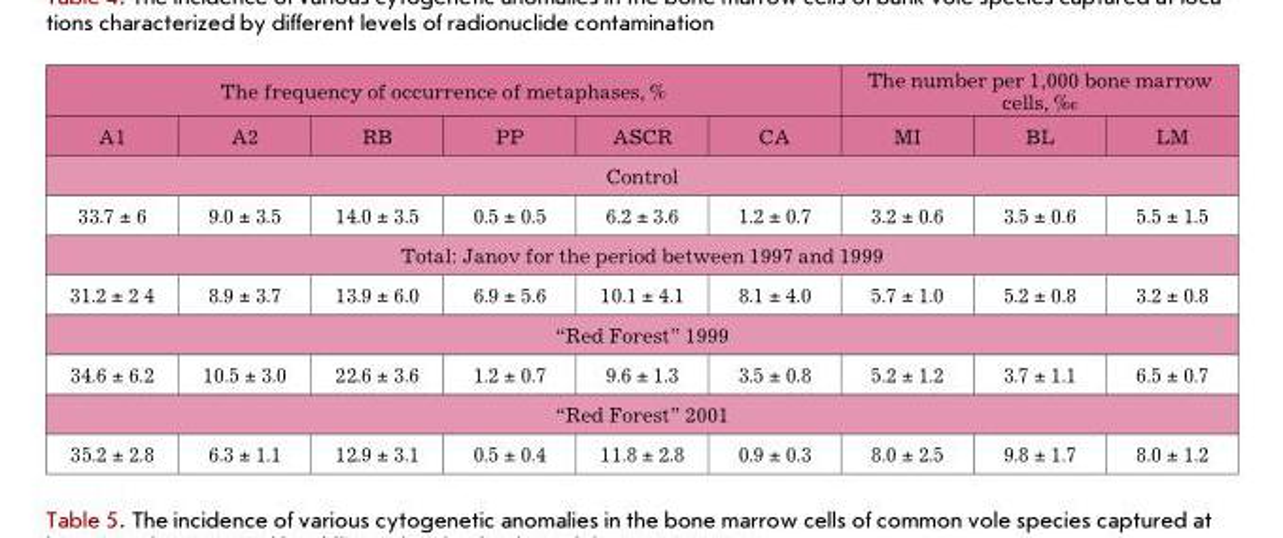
<table><thead><tr><td colspan="6">the frequency of occurrence of metaphases, %</td><td colspan="3">the number per 1,000 bone marrow cells, ‰</td></tr><tr><td>А1</td><td>А2</td><td>rB</td><td>PP</td><td>AScr</td><td>cA</td><td>MI</td><td>BL</td><td>LM</td></tr></thead><tbody><tr><td colspan="9">control</td></tr><tr><td>33.7 ± 6</td><td>9.0 ± 3.5</td><td>14.0 ± 3.5</td><td>0.5 ± 0.5</td><td>6.2 ± 3.6</td><td>1.2 ± 0.7</td><td>3.2 ± 0.6</td><td>3.5 ± 0.6</td><td>5.5 ± 1.5</td></tr><tr><td colspan="9">total: Janov for the period between 1997 and 1999</td></tr><tr><td>31.2 ± 2 4</td><td>8.9 ± 3.7</td><td>13.9 ± 6.0</td><td>6.9 ± 5.6</td><td>10.1 ± 4.1</td><td>8.1 ± 4.0</td><td>5.7 ± 1.0</td><td>5.2 ± 0.8</td><td>3.2 ± 0.8</td></tr><tr><td colspan="9">“red Forest” 1999</td></tr><tr><td>34.6 ± 6.2</td><td>10.5 ± 3.0</td><td>22.6 ± 3.6</td><td>1.2 ± 0.7</td><td>9.6 ± 1.3</td><td>3.5 ± 0.8</td><td>5.2 ± 1.2</td><td>3.7 ± 1.1</td><td>6.5 ± 0.7</td></tr><tr><td colspan="9">“red Forest” 2001</td></tr><tr><td>35.2 ± 2.8</td><td>6.3 ± 1.1</td><td>12.9 ± 3.1</td><td>0.5 ± 0.4</td><td>11.8 ± 2.8</td><td>0.9 ± 0.3</td><td>8.0 ± 2.5</td><td>9.8 ± 1.7</td><td>8.0 ± 1.2</td></tr></tbody></table>